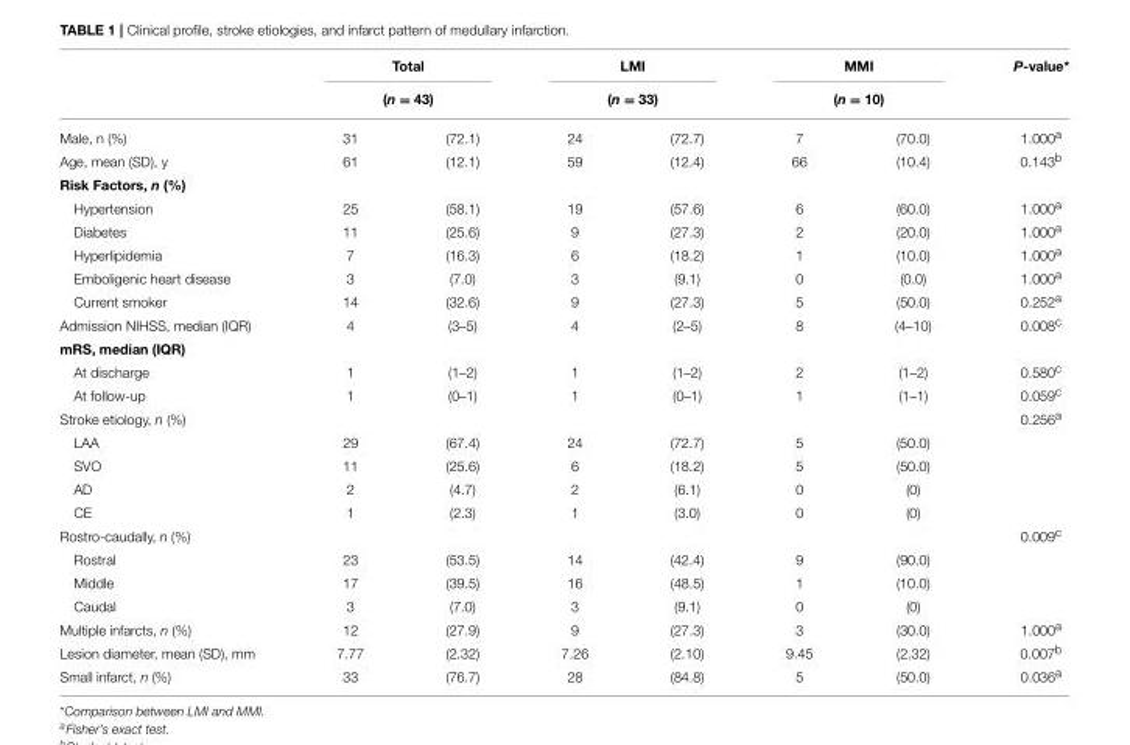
<table><thead><tr><td rowspan="3">Male, n (%)</td><td rowspan="2" colspan="2">Total (n = 43)</td><td rowspan="2" colspan="2">LMI (n = 33)</td><td rowspan="2" colspan="2">MMI (n = 10)</td><td rowspan="3">P-value* 1.000<sup>a</sup></td></tr><tr></tr><tr><td>31</td><td>(72.1)</td><td>24</td><td>(72.7)</td><td>7</td><td>(70.0)</td></tr></thead><tbody><tr><td>Age, mean (SD), y</td><td>61</td><td>(12.1)</td><td>59</td><td>(12.4)</td><td>66</td><td>(10.4)</td><td>0.143<sup>b</sup></td></tr><tr><td colspan="8">Risk Factors, n (%)</td></tr><tr><td>Hypertension</td><td>25</td><td>(58.1)</td><td>19</td><td>(57.6)</td><td>6</td><td>(60.0)</td><td>1.000<sup>a</sup></td></tr><tr><td>Diabetes</td><td>11</td><td>(25.6)</td><td>9</td><td>(27.3)</td><td>2</td><td>(20.0)</td><td>1.000<sup>a</sup></td></tr><tr><td>Hyperlipidemia</td><td>7</td><td>(16.3)</td><td>6</td><td>(18.2)</td><td>1</td><td>(10.0)</td><td>1.000<sup>a</sup></td></tr><tr><td>Emboligenic heart disease</td><td>3</td><td>(7.0)</td><td>3</td><td>(9.1)</td><td>0</td><td>(0.0)</td><td>1.000<sup>a</sup></td></tr><tr><td>Current smoker</td><td>14</td><td>(32.6)</td><td>9</td><td>(27.3)</td><td>5</td><td>(50.0)</td><td>0.252<sup>a</sup></td></tr><tr><td>Admission NIHSS, median (IQR)</td><td>4</td><td>(3–5)</td><td>4</td><td>(2–5)</td><td>8</td><td>(4–10)</td><td>0.008<sup>c</sup></td></tr><tr><td colspan="8">mRS, median (IQR)</td></tr><tr><td>At discharge</td><td>1</td><td>(1–2)</td><td>1</td><td>(1–2)</td><td>2</td><td>(1–2)</td><td>0.580<sup>c</sup></td></tr><tr><td>At follow-up</td><td>1</td><td>(0–1)</td><td>1</td><td>(0–1)</td><td>1</td><td>(1–1)</td><td>0.059<sup>c</sup></td></tr><tr><td>Stroke etiology, n (%)</td><td></td><td></td><td></td><td></td><td></td><td></td><td>0.256<sup>a</sup></td></tr><tr><td>LAA</td><td>29</td><td>(67.4)</td><td>24</td><td>(72.7)</td><td>5</td><td>(50.0)</td><td></td></tr><tr><td>SVO</td><td>11</td><td>(25.6)</td><td>6</td><td>(18.2)</td><td>5</td><td>(50.0)</td><td></td></tr><tr><td>AD</td><td>2</td><td>(4.7)</td><td>2</td><td>(6.1)</td><td>0</td><td>(0)</td><td></td></tr><tr><td>CE</td><td>1</td><td>(2.3)</td><td>1</td><td>(3.0)</td><td>0</td><td>(0)</td><td></td></tr><tr><td>Rostro-caudally, n (%)</td><td></td><td></td><td></td><td></td><td></td><td></td><td>0.009<sup>c</sup></td></tr><tr><td>Rostral</td><td>23</td><td>(53.5)</td><td>14</td><td>(42.4)</td><td>9</td><td>(90.0)</td><td></td></tr><tr><td>Middle</td><td>17</td><td>(39.5)</td><td>16</td><td>(48.5)</td><td>1</td><td>(10.0)</td><td></td></tr><tr><td>Caudal</td><td>3</td><td>(7.0)</td><td>3</td><td>(9.1)</td><td>0</td><td>(0)</td><td></td></tr><tr><td>Multiple infarcts, n (%)</td><td>12</td><td>(27.9)</td><td>9</td><td>(27.3)</td><td>3</td><td>(30.0)</td><td>1.000<sup>a</sup></td></tr><tr><td>Lesion diameter, mean (SD), mm</td><td>7.77</td><td>(2.32)</td><td>7.26</td><td>(2.10)</td><td>9.45</td><td>(2.32)</td><td>0.007<sup>b</sup></td></tr><tr><td>Small infarct, n (%)</td><td>33</td><td>(76.7)</td><td>28</td><td>(84.8)</td><td>5</td><td>(50.0)</td><td>0.036<sup>a</sup></td></tr></tbody></table>